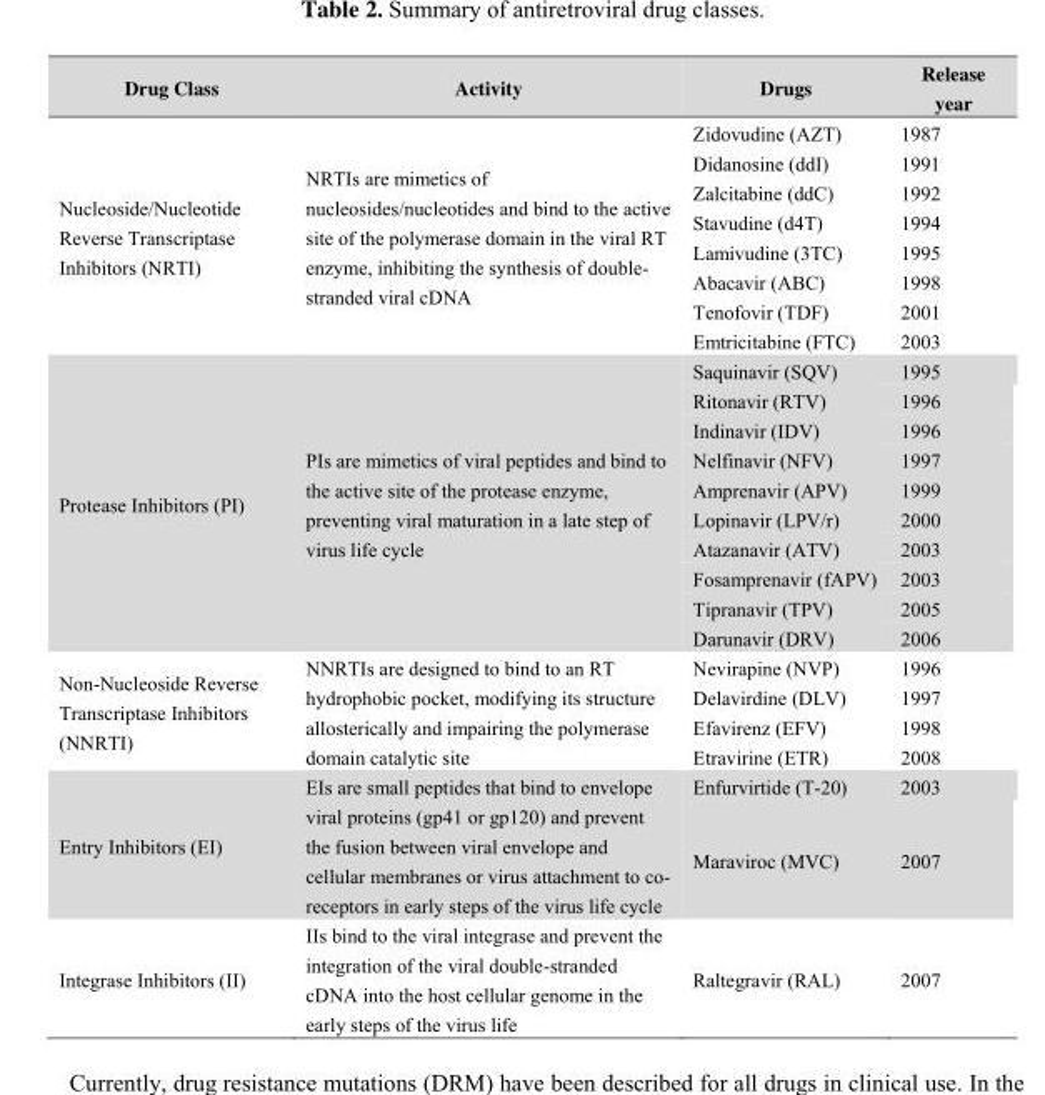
<table><thead><tr><td>Drug Class</td><td>Activity</td><td>Drugs</td><td>Release year</td></tr></thead><tbody><tr><td rowspan="8">Nucleoside/Nucleotide Reverse Transcriptase Inhibitors (NRTI)</td><td rowspan="8">NRTIs are mimetics of nucleosides/nucleotides and bind to the active site of the polymerase domain in the viral RT enzyme, inhibiting the synthesis of double- stranded viral cDNA</td><td>Zidovudine (AZT)</td><td>1987</td></tr><tr><td>Didanosine (ddI)</td><td>1991</td></tr><tr><td>Zalcitabine (ddC)</td><td>1992</td></tr><tr><td>Stavudine (d4T)</td><td>1994</td></tr><tr><td>Lamivudine (3TC)</td><td>1995</td></tr><tr><td>Abacavir (ABC)</td><td>1998</td></tr><tr><td>Tenofovir (TDF)</td><td>2001</td></tr><tr><td>Emtricitabine (FTC)</td><td>2003</td></tr><tr><td rowspan="10">Protease Inhibitors (PI)</td><td rowspan="10">PIs are mimetics of viral peptides and bind to the active site of the protease enzyme, preventing viral maturation in a late step of virus life cycle</td><td>Saquinavir (SQV)</td><td>1995</td></tr><tr><td>Ritonavir (RTV)</td><td>1996</td></tr><tr><td>Indinavir (IDV)</td><td>1996</td></tr><tr><td>Nelfinavir (NFV)</td><td>1997</td></tr><tr><td>Amprenavir (APV)</td><td>1999</td></tr><tr><td>Lopinavir (LPV/r)</td><td>2000</td></tr><tr><td>Atazanavir (ATV)</td><td>2003</td></tr><tr><td>Fosamprenavir (fAPV)</td><td>2003</td></tr><tr><td>Tipranavir (TPV)</td><td>2005</td></tr><tr><td>Darunavir (DRV)</td><td>2006</td></tr><tr><td rowspan="4">Non-Nucleoside Reverse Transcriptase Inhibitors (NNRTI)</td><td rowspan="4">NNRTIs are designed to bind to an RT hydrophobic pocket, modifying its structure allosterically and impairing the polymerase domain catalytic site</td><td>Nevirapine (NVP)</td><td>1996</td></tr><tr><td>Delavirdine (DLV)</td><td>1997</td></tr><tr><td>Efavirenz (EFV)</td><td>1998</td></tr><tr><td>Etravirine (ETR)</td><td>2008</td></tr><tr><td rowspan="2">Entry Inhibitors (EI)</td><td rowspan="2">EIs are small peptides that bind to envelope viral proteins (gp41 or gp120) and prevent the fusion between viral envelope and cellular membranes or virus attachment to co- receptors in early steps of the virus life cycle</td><td>Enfurvirtide (T-20)</td><td>2003</td></tr><tr><td>Maraviroc (MVC)</td><td>2007</td></tr><tr><td>Integrase Inhibitors (II)</td><td>IIs bind to the viral integrase and prevent the integration of the viral double-stranded cDNA into the host cellular genome in the early steps of the virus life</td><td>Raltegravir (RAL)</td><td>2007</td></tr></tbody></table>